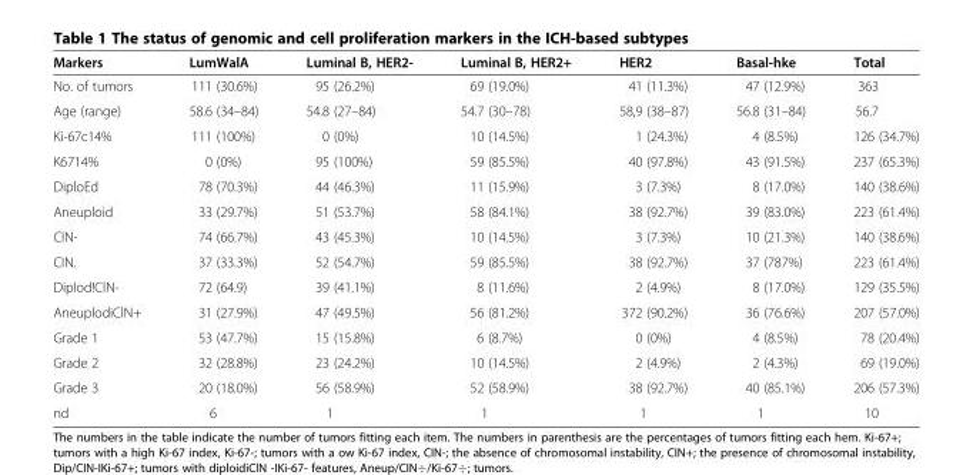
<table><thead><tr><td>Markers</td><td>LumWalA</td><td>Luminal B, HER2-</td><td>Luminal B, HER2+</td><td>HER2</td><td>Basal-hke</td><td>Total</td></tr></thead><tbody><tr><td>No. of tumors</td><td>111 (30.6%)</td><td>95 (26.2%)</td><td>69 (19.0%)</td><td>41 (11.3%)</td><td>47 (12.9%)</td><td>363</td></tr><tr><td>Age (range)</td><td>58.6 (34–84)</td><td>54.8 (27–84)</td><td>54.7 (30–78)</td><td>58,9 (38–87)</td><td>56.8 (31–84)</td><td>56.7</td></tr><tr><td>Ki-67c14%</td><td>111 (100%)</td><td>0 (0%)</td><td>10 (14.5%)</td><td>1 (24.3%)</td><td>4 (8.5%)</td><td>126 (34.7%)</td></tr><tr><td>K6714%</td><td>0 (0%)</td><td>95 (100%)</td><td>59 (85.5%)</td><td>40 (97.8%)</td><td>43 (91.5%)</td><td>237 (65.3%)</td></tr><tr><td>DiploEd</td><td>78 (70.3%)</td><td>44 (46.3%)</td><td>11 (15.9%)</td><td>3 (7.3%)</td><td>8 (17.0%)</td><td>140 (38.6%)</td></tr><tr><td>Aneuploid</td><td>33 (29.7%)</td><td>51 (53.7%)</td><td>58 (84.1%)</td><td>38 (92.7%)</td><td>39 (83.0%)</td><td>223 (61.4%)</td></tr><tr><td>CIN-</td><td>74 (66.7%)</td><td>43 (45.3%)</td><td>10 (14.5%)</td><td>3 (7.3%)</td><td>10 (21.3%)</td><td>140 (38.6%)</td></tr><tr><td>CIN.</td><td>37 (33.3%)</td><td>52 (54.7%)</td><td>59 (85.5%)</td><td>38 (92.7%)</td><td>37 (787%)</td><td>223 (61.4%)</td></tr><tr><td>DipIod!ClN-</td><td>72 (64.9)</td><td>39 (41.1%)</td><td>8 (11.6%)</td><td>2 (4.9%)</td><td>8 (17.0%)</td><td>129 (35.5%)</td></tr><tr><td>AneuplodiClN+</td><td>31 (27.9%)</td><td>47 (49.5%)</td><td>56 (81.2%)</td><td>372 (90.2%)</td><td>36 (76.6%)</td><td>207 (57.0%)</td></tr><tr><td>Grade 1</td><td>53 (47.7%)</td><td>15 (15.8%)</td><td>6 (8.7%)</td><td>0 (0%)</td><td>4 (8.5%)</td><td>78 (20.4%)</td></tr><tr><td>Grade 2</td><td>32 (28.8%)</td><td>23 (24.2%)</td><td>10 (14.5%)</td><td>2 (4.9%)</td><td>2 (4.3%)</td><td>69 (19.0%)</td></tr><tr><td>Grade 3</td><td>20 (18.0%)</td><td>56 (58.9%)</td><td>52 (58.9%)</td><td>38 (92.7%)</td><td>40 (85.1%)</td><td>206 (57.3%)</td></tr><tr><td>nd</td><td>6</td><td>1</td><td>1</td><td>1</td><td>1</td><td>10</td></tr></tbody></table>